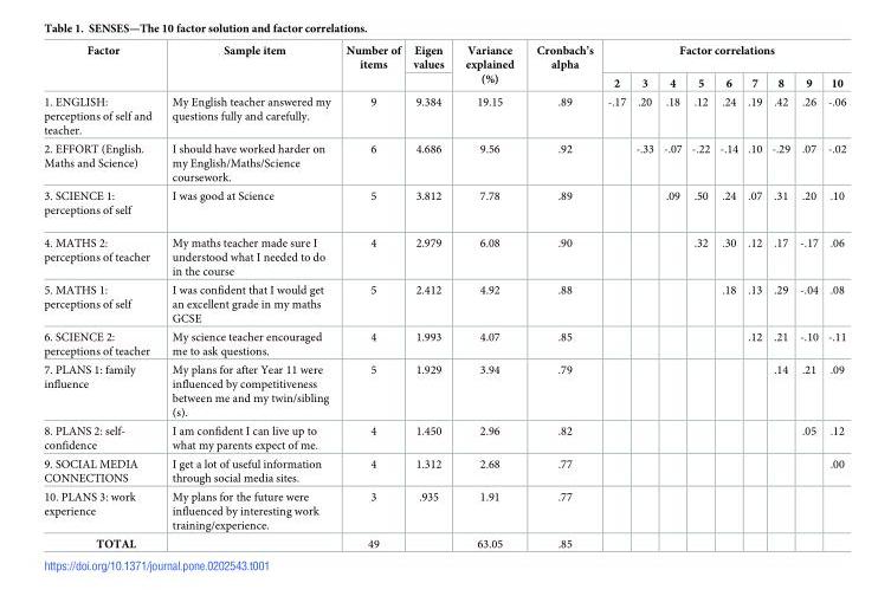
<table><thead><tr><td rowspan="2">Factor</td><td rowspan="2">Sample item</td><td rowspan="2">Number of items</td><td rowspan="2">Eigen values</td><td rowspan="2">Variance explained (%)</td><td rowspan="2">Cronbach’s alpha</td><td colspan="9">Factor correlations</td></tr><tr><td>2</td><td>3</td><td>4</td><td>5</td><td>6</td><td>7</td><td>8</td><td>9</td><td>10</td></tr></thead><tbody><tr><td>1. ENGLISH: perceptions of self and teacher.</td><td>My English teacher answered my questions fully and carefully.</td><td>9</td><td>9.384</td><td>19.15</td><td>.89</td><td>-.17</td><td>.20</td><td>.18</td><td>.12</td><td>.24</td><td>.19</td><td>.42</td><td>.26</td><td>-.06</td></tr><tr><td>2. EFFORT (English. Maths and Science)</td><td>I should have worked harder on my English/Maths/Science coursework.</td><td>6</td><td>4.686</td><td>9.56</td><td>.92</td><td></td><td>-.33</td><td>-.07</td><td>-.22</td><td>-.14</td><td>.10</td><td>-.29</td><td>.07</td><td>-.02</td></tr><tr><td>3. SCIENCE 1: perceptions of self</td><td>I was good at Science</td><td>5</td><td>3.812</td><td>7.78</td><td>.89</td><td></td><td></td><td>.09</td><td>.50</td><td>.24</td><td>.07</td><td>.31</td><td>.20</td><td>.10</td></tr><tr><td>4. MATHS 2: perceptions of teacher</td><td>My maths teacher made sure I understood what I needed to do in the course</td><td>4</td><td>2.979</td><td>6.08</td><td>.90</td><td></td><td></td><td></td><td>.32</td><td>.30</td><td>.12</td><td>.17</td><td>-.17</td><td>.06</td></tr><tr><td>5. MATHS 1: perceptions of self</td><td>I was confident that I would get an excellent grade in my maths GCSE</td><td>5</td><td>2.412</td><td>4.92</td><td>.88</td><td></td><td></td><td></td><td></td><td>.18</td><td>.13</td><td>.29</td><td>-.04</td><td>.08</td></tr><tr><td>6. SCIENCE 2: perceptions of teacher</td><td>My science teacher encouraged me to ask questions.</td><td>4</td><td>1.993</td><td>4.07</td><td>.85</td><td></td><td></td><td></td><td></td><td></td><td>.12</td><td>.21</td><td>-.10</td><td>-.11</td></tr><tr><td>7. PLANS 1: family influence</td><td>My plans for after Year 11 were influenced by competitiveness between me and my twin/sibling (s).</td><td>5</td><td>1.929</td><td>3.94</td><td>.79</td><td></td><td></td><td></td><td></td><td></td><td></td><td>.14</td><td>.21</td><td>.09</td></tr><tr><td>8. PLANS 2: self- confidence</td><td>I am confident I can live up to what my parents expect of me.</td><td>4</td><td>1.450</td><td>2.96</td><td>.82</td><td></td><td></td><td></td><td></td><td></td><td></td><td></td><td>.05</td><td>.12</td></tr><tr><td>9. SOCIAL MEDIA CONNECTIONS</td><td>I get a lot of useful information through social media sites.</td><td>4</td><td>1.312</td><td>2.68</td><td>.77</td><td></td><td></td><td></td><td></td><td></td><td></td><td></td><td></td><td>.00</td></tr><tr><td>10. PLANS 3: work experience</td><td>My plans for the future were influenced by interesting work training/experience.</td><td>3</td><td>.935</td><td>1.91</td><td>.77</td><td></td><td></td><td></td><td></td><td></td><td></td><td></td><td></td><td></td></tr><tr><td>TOTAL</td><td></td><td>49</td><td></td><td>63.05</td><td>.85</td><td></td><td></td><td></td><td></td><td></td><td></td><td></td><td></td><td></td></tr></tbody></table>